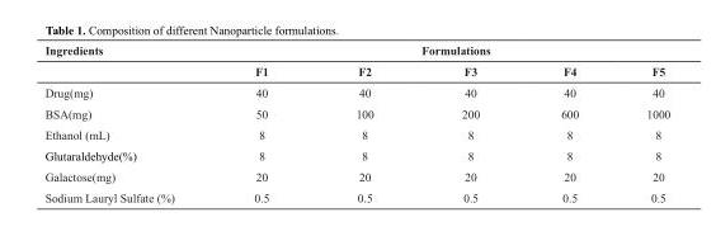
<table><thead><tr><td rowspan="2">Ingredients</td><td colspan="5">Formulations</td></tr><tr><td>F1</td><td>F2</td><td>F3</td><td>F4</td><td>F5</td></tr></thead><tbody><tr><td>Drug(mg)</td><td>40</td><td>40</td><td>40</td><td>40</td><td>40</td></tr><tr><td>BSA(mg)</td><td>50</td><td>100</td><td>200</td><td>600</td><td>1000</td></tr><tr><td>Ethanol (mL)</td><td>8</td><td>8</td><td>8</td><td>8</td><td>8</td></tr><tr><td>Glutaraldehyde(%)</td><td>8</td><td>8</td><td>8</td><td>8</td><td>8</td></tr><tr><td>Galactose(mg)</td><td>20</td><td>20</td><td>20</td><td>20</td><td>20</td></tr><tr><td>Sodium Lauryl Sulfate (%)</td><td>0.5</td><td>0.5</td><td>0.5</td><td>0.5</td><td>0.5</td></tr></tbody></table>